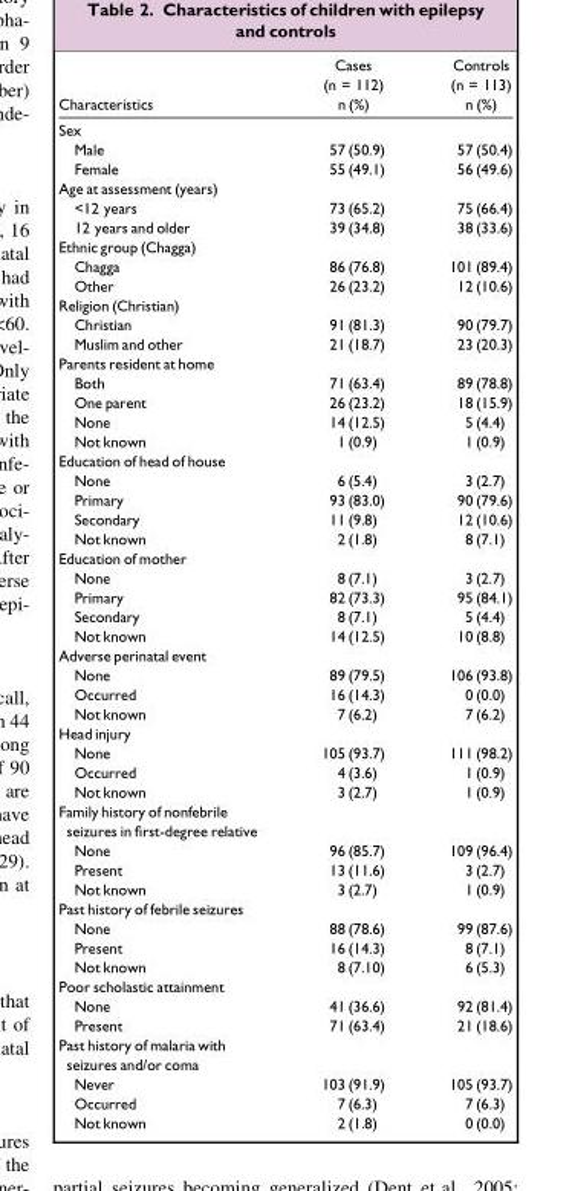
<table><thead><tr><td>Characteristics</td><td>Cases (n = 112) n (%)</td><td>Controls (n = 113) n (%)</td></tr></thead><tbody><tr><td colspan="3">Sex</td></tr><tr><td>Male</td><td>57 (50.9)</td><td>57 (50.4)</td></tr><tr><td>Female</td><td>55 (49.1)</td><td>56 (49.6)</td></tr><tr><td colspan="3">Age at assessment (years)</td></tr><tr><td>&lt;12 years</td><td>73 (65.2)</td><td>75 (66.4)</td></tr><tr><td>12 years and older</td><td>39 (34.8)</td><td>38 (33.6)</td></tr><tr><td colspan="3">Ethnic group (Chagga)</td></tr><tr><td>Chagga</td><td>86 (76.8)</td><td>101 (89.4)</td></tr><tr><td>Other</td><td>26 (23.2)</td><td>12 (10.6)</td></tr><tr><td colspan="3">Religion (Christian)</td></tr><tr><td>Christian</td><td>91 (81.3)</td><td>90 (79.7)</td></tr><tr><td>Muslim and other</td><td>21 (18.7)</td><td>23 (20.3)</td></tr><tr><td colspan="3">Parents resident at home</td></tr><tr><td>Both</td><td>71 (63.4)</td><td>89 (78.8)</td></tr><tr><td>One parent</td><td>26 (23.2)</td><td>18 (15.9)</td></tr><tr><td>None</td><td>14 (12.5)</td><td>5 (4.4)</td></tr><tr><td>Not known</td><td>1 (0.9)</td><td>1 (0.9)</td></tr><tr><td colspan="3">Education of head of house</td></tr><tr><td>None</td><td>6 (5.4)</td><td>3 (2.7)</td></tr><tr><td>Primary</td><td>93 (83.0)</td><td>90 (79.6)</td></tr><tr><td>Secondary</td><td>11 (9.8)</td><td>12 (10.6)</td></tr><tr><td>Not known</td><td>2 (1.8)</td><td>8 (7.1)</td></tr><tr><td colspan="3">Education of mother</td></tr><tr><td>None</td><td>8 (7.1)</td><td>3 (2.7)</td></tr><tr><td>Primary</td><td>82 (73.3)</td><td>95 (84.1)</td></tr><tr><td>Secondary</td><td>8 (7.1)</td><td>5 (4.4)</td></tr><tr><td>Not known</td><td>14 (12.5)</td><td>10 (8.8)</td></tr><tr><td colspan="3">Adverse perinatal event</td></tr><tr><td>None</td><td>89 (79.5)</td><td>106 (93.8)</td></tr><tr><td>Occurred</td><td>16 (14.3)</td><td>0 (0.0)</td></tr><tr><td>Not known</td><td>7 (6.2)</td><td>7 (6.2)</td></tr><tr><td colspan="3">Head injury</td></tr><tr><td>None</td><td>105 (93.7)</td><td>111 (98.2)</td></tr><tr><td>Occurred</td><td>4 (3.6)</td><td>1 (0.9)</td></tr><tr><td>Not known</td><td>3 (2.7)</td><td>1 (0.9)</td></tr><tr><td colspan="3">Family history of nonfebrile seizures in first-degree relative</td></tr><tr><td>None</td><td>96 (85.7)</td><td>109 (96.4)</td></tr><tr><td>Present</td><td>13 (11.6)</td><td>3 (2.7)</td></tr><tr><td>Not known</td><td>3 (2.7)</td><td>1 (0.9)</td></tr><tr><td colspan="3">Past history of febrile seizures</td></tr><tr><td>None</td><td>88 (78.6)</td><td>99 (87.6)</td></tr><tr><td>Present</td><td>16 (14.3)</td><td>8 (7.1)</td></tr><tr><td>Not known</td><td>8 (7.10)</td><td>6 (5.3)</td></tr><tr><td colspan="3">Poor scholastic attainment</td></tr><tr><td>None</td><td>41 (36.6)</td><td>92 (81.4)</td></tr><tr><td>Present</td><td>71 (63.4)</td><td>21 (18.6)</td></tr><tr><td colspan="3">Past history of malaria with seizures and/or coma</td></tr><tr><td>Never</td><td>103 (91.9)</td><td>105 (93.7)</td></tr><tr><td>Occurred</td><td>7 (6.3)</td><td>7 (6.3)</td></tr><tr><td>Not known</td><td>2 (1.8)</td><td>0 (0.0)</td></tr></tbody></table>